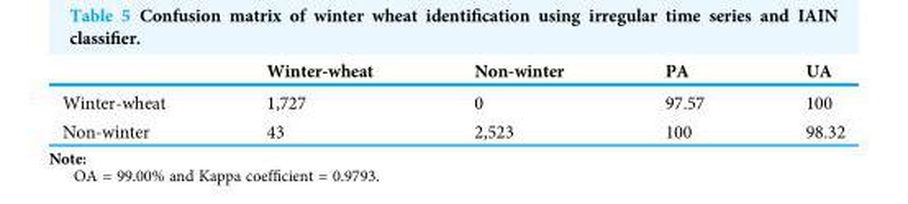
<table><thead><tr><td></td><td>Winter-wheat</td><td>Non-winter</td><td>PA</td><td>UA</td></tr></thead><tbody><tr><td>Winter-wheat</td><td>1,727</td><td>0</td><td>97.57</td><td>100</td></tr><tr><td>Non-winter</td><td>43</td><td>2,523</td><td>100</td><td>98.32</td></tr></tbody></table>